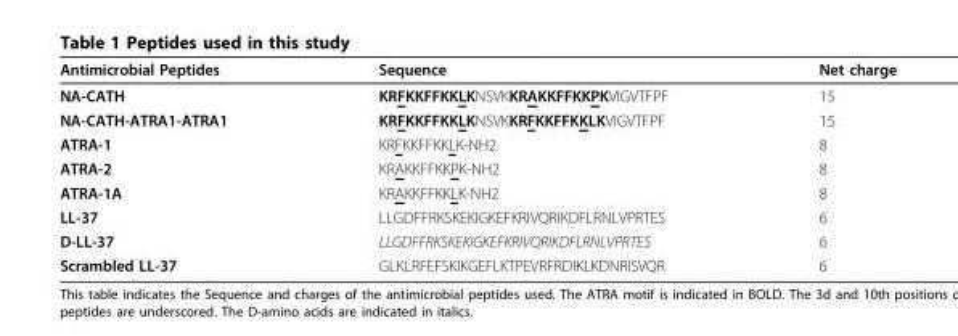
<table><thead><tr><td>Antimicrobial Peptides</td><td>Sequence</td><td>Net charge</td></tr></thead><tbody><tr><td>NA-CATH</td><td>KRFKKFFKKLKNSVKKRAKKFFKKPKVIGVTFPF</td><td>15</td></tr><tr><td>NA-CATH-ATRA1-ATRA1</td><td>KRFKKFFKKLKNSVKKRFKKFFKKLKVIGVTFPF</td><td>15</td></tr><tr><td>ATRA-1</td><td>KRFKKFFKKLK-NH2</td><td>8</td></tr><tr><td>ATRA-2</td><td>KRAKKFFKKPK-NH2</td><td>8</td></tr><tr><td>ATRA-1A</td><td>KRAKKFFKKLK-NH2</td><td>8</td></tr><tr><td>LL-37</td><td>LLGDFFRKSKEKIGKEFKRIVQRIKDFLRNLVPRTES</td><td>6</td></tr><tr><td>D-LL-37</td><td>LLGDFFRKSKEKIGKEFKRIVQRIKDFLRNLVPRTES</td><td>6</td></tr><tr><td>Scrambled LL-37</td><td>GLKLRFEFSKIKGEFLKTPEVRFRDIKLKDNRISVQR</td><td>6</td></tr></tbody></table>